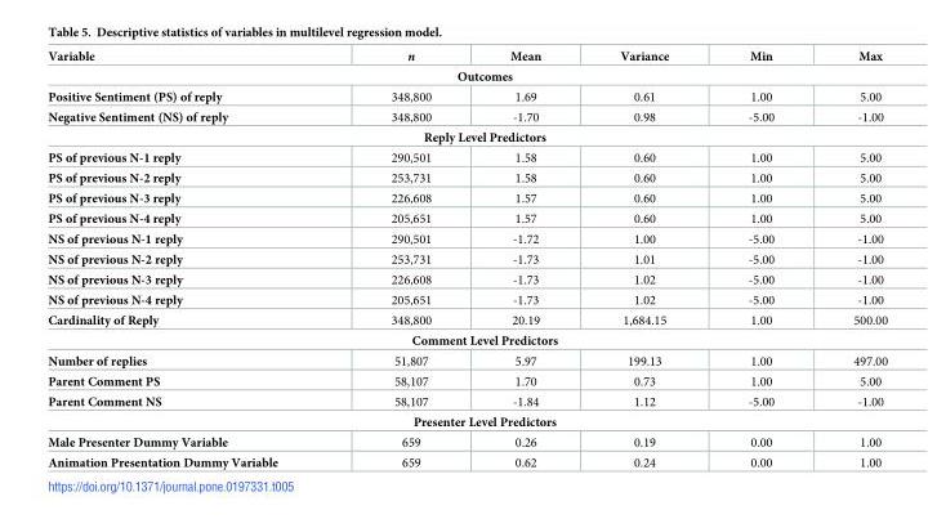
<table><thead><tr><td>Variable</td><td>n</td><td>Mean</td><td>Variance</td><td>Min</td><td>Max</td></tr></thead><tbody><tr><td colspan="6">Outcomes</td></tr><tr><td>Positive Sentiment (PS) of reply</td><td>348,800</td><td>1.69</td><td>0.61</td><td>1.00</td><td>5.00</td></tr><tr><td>Negative Sentiment (NS) of reply</td><td>348,800</td><td>-1.70</td><td>0.98</td><td>-5.00</td><td>-1.00</td></tr><tr><td colspan="6">Reply Level Predictors</td></tr><tr><td>PS of previous N-1 reply</td><td>290,501</td><td>1.58</td><td>0.60</td><td>1.00</td><td>5.00</td></tr><tr><td>PS of previous N-2 reply</td><td>253,731</td><td>1.58</td><td>0.60</td><td>1.00</td><td>5.00</td></tr><tr><td>PS of previous N-3 reply</td><td>226,608</td><td>1.57</td><td>0.60</td><td>1.00</td><td>5.00</td></tr><tr><td>PS of previous N-4 reply</td><td>205,651</td><td>1.57</td><td>0.60</td><td>1.00</td><td>5.00</td></tr><tr><td>NS of previous N-1 reply</td><td>290,501</td><td>-1.72</td><td>1.00</td><td>-5.00</td><td>-1.00</td></tr><tr><td>NS of previous N-2 reply</td><td>253,731</td><td>-1.73</td><td>1.01</td><td>-5.00</td><td>-1.00</td></tr><tr><td>NS of previous N-3 reply</td><td>226,608</td><td>-1.73</td><td>1.02</td><td>-5.00</td><td>-1.00</td></tr><tr><td>NS of previous N-4 reply</td><td>205,651</td><td>-1.73</td><td>1.02</td><td>-5.00</td><td>-1.00</td></tr><tr><td>Cardinality of Reply</td><td>348,800</td><td>20.19</td><td>1,684.15</td><td>1.00</td><td>500.00</td></tr><tr><td colspan="6">Comment Level Predictors</td></tr><tr><td>Number of replies</td><td>51,807</td><td>5.97</td><td>199.13</td><td>1.00</td><td>497.00</td></tr><tr><td>Parent Comment PS</td><td>58,107</td><td>1.70</td><td>0.73</td><td>1.00</td><td>5.00</td></tr><tr><td>Parent Comment NS</td><td>58,107</td><td>-1.84</td><td>1.12</td><td>-5.00</td><td>-1.00</td></tr><tr><td colspan="6">Presenter Level Predictors</td></tr><tr><td>Male Presenter Dummy Variable</td><td>659</td><td>0.26</td><td>0.19</td><td>0.00</td><td>1.00</td></tr><tr><td>Animation Presentation Dummy Variable</td><td>659</td><td>0.62</td><td>0.24</td><td>0.00</td><td>1.00</td></tr></tbody></table>